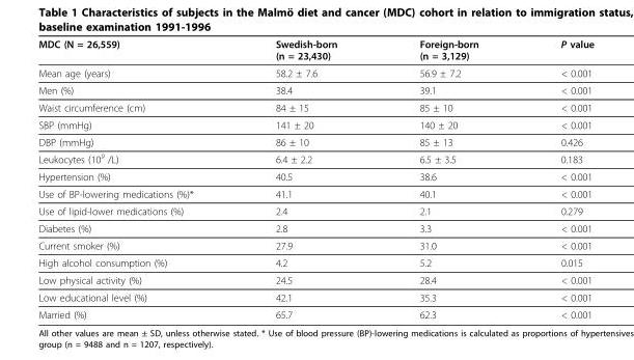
<table><thead><tr><td>MDC (N = 26,559)</td><td>Swedish-born (n = 23,430)</td><td>Foreign-born (n = 3,129)</td><td>P value</td></tr></thead><tbody><tr><td>Mean age (years)</td><td>58.2 ± 7.6</td><td>56.9 ± 7.2</td><td>&lt; 0.001</td></tr><tr><td>Men (%)</td><td>38.4</td><td>39.1</td><td>&lt; 0.001</td></tr><tr><td>Waist circumference (cm)</td><td>84 ± 15</td><td>85 ± 10</td><td>&lt; 0.001</td></tr><tr><td>SBP (mmHg)</td><td>141 ± 20</td><td>140 ± 20</td><td>&lt; 0.001</td></tr><tr><td>DBP (mmHg)</td><td>86 ± 10</td><td>85 ± 13</td><td>0.426</td></tr><tr><td>Leukocytes (10<sup>9</sup> /L)</td><td>6.4 ± 2.2</td><td>6.5 ± 3.5</td><td>0.183</td></tr><tr><td>Hypertension (%)</td><td>40.5</td><td>38.6</td><td>&lt; 0.001</td></tr><tr><td>Use of BP-lowering medications (%)*</td><td>41.1</td><td>40.1</td><td>&lt; 0.001</td></tr><tr><td>Use of lipid-lower medications (%)</td><td>2.4</td><td>2.1</td><td>0.279</td></tr><tr><td>Diabetes (%)</td><td>2.8</td><td>3.3</td><td>&lt; 0.001</td></tr><tr><td>Current smoker (%)</td><td>27.9</td><td>31.0</td><td>&lt; 0.001</td></tr><tr><td>High alcohol consumption (%)</td><td>4.2</td><td>5.2</td><td>0.015</td></tr><tr><td>Low physical activity (%)</td><td>24.5</td><td>28.4</td><td>&lt; 0.001</td></tr><tr><td>Low educational level (%)</td><td>42.1</td><td>35.3</td><td>&lt; 0.001</td></tr><tr><td>Married (%)</td><td>65.7</td><td>62.3</td><td>&lt; 0.001</td></tr></tbody></table>